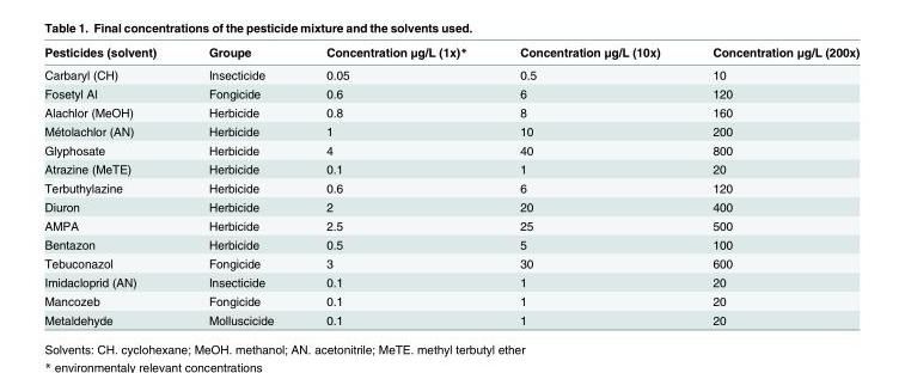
<table><thead><tr><td>Pesticides (solvent)</td><td>Groupe</td><td>Concentration μg/L (1x)*</td><td>Concentration μg/L (10x)</td><td>Concentration μg/L (200x)</td></tr></thead><tbody><tr><td>Carbaryl (CH)</td><td>Insecticide</td><td>0.05</td><td>0.5</td><td>10</td></tr><tr><td>Fosetyl Al</td><td>Fongicide</td><td>0.6</td><td>6</td><td>120</td></tr><tr><td>Alachlor (MeOH)</td><td>Herbicide</td><td>0.8</td><td>8</td><td>160</td></tr><tr><td>Métolachlor (AN)</td><td>Herbicide</td><td>1</td><td>10</td><td>200</td></tr><tr><td>Glyphosate</td><td>Herbicide</td><td>4</td><td>40</td><td>800</td></tr><tr><td>Atrazine (MeTE)</td><td>Herbicide</td><td>0.1</td><td>1</td><td>20</td></tr><tr><td>Terbuthylazine</td><td>Herbicide</td><td>0.6</td><td>6</td><td>120</td></tr><tr><td>Diuron</td><td>Herbicide</td><td>2</td><td>20</td><td>400</td></tr><tr><td>AMPA</td><td>Herbicide</td><td>2.5</td><td>25</td><td>500</td></tr><tr><td>Bentazon</td><td>Herbicide</td><td>0.5</td><td>5</td><td>100</td></tr><tr><td>Tebuconazol</td><td>Fongicide</td><td>3</td><td>30</td><td>600</td></tr><tr><td>Imidacloprid (AN)</td><td>Insecticide</td><td>0.1</td><td>1</td><td>20</td></tr><tr><td>Mancozeb</td><td>Fongicide</td><td>0.1</td><td>1</td><td>20</td></tr><tr><td>Metaldehyde</td><td>Molluscicide</td><td>0.1</td><td>1</td><td>20</td></tr></tbody></table>